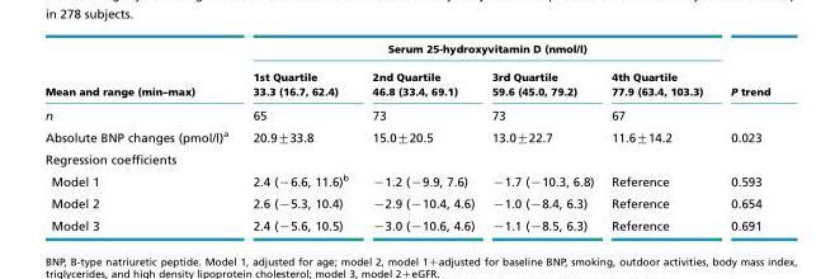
<table><thead><tr><td rowspan="2">Mean and range (min–max)</td><td colspan="4">Serum 25-hydroxyvitamin D (nmol/l)</td><td rowspan="2">P trend</td></tr><tr><td>1st Quartile 33.3 (16.7, 62.4)</td><td>2nd Quartile 46.8 (33.4, 69.1)</td><td>3rd Quartile 59.6 (45.0, 79.2)</td><td>4th Quartile 77.9 (63.4, 103.3)</td></tr></thead><tbody><tr><td>n</td><td>65</td><td>73</td><td>73</td><td>67</td><td></td></tr><tr><td>Absolute BNP changes (pmol/l)<sup>a</sup></td><td>20.9±33.8</td><td>15.0±20.5</td><td>13.0±22.7</td><td>11.6±14.2</td><td>0.023</td></tr><tr><td colspan="6">Regression coefficients</td></tr><tr><td>Model 1</td><td>2.4 (−6.6, 11.6)<sup>b</sup></td><td>−1.2 (−9.9, 7.6)</td><td>−1.7 (−10.3, 6.8)</td><td>Reference</td><td>0.593</td></tr><tr><td>Model 2</td><td>2.6 (−5.3, 10.4)</td><td>−2.9 (−10.4, 4.6)</td><td>−1.0 (−8.4, 6.3)</td><td>Reference</td><td>0.654</td></tr><tr><td>Model 3</td><td>2.4 (−5.6, 10.5)</td><td>−3.0 (−10.6, 4.6)</td><td>−1.1 (−8.5, 6.3)</td><td>Reference</td><td>0.691</td></tr></tbody></table>